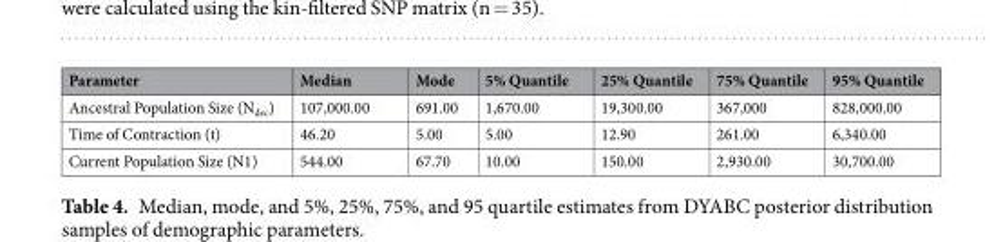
<table><thead><tr><td>Parameter</td><td>Median</td><td>Mode</td><td>5% Quantile</td><td>25% Quantile</td><td>75% Quantile</td><td>95% Quantile</td></tr></thead><tbody><tr><td>Ancestral Population Size (N<sub>dec</sub>)</td><td>107,000.00</td><td>691.00</td><td>1,670.00</td><td>19,300.00</td><td>367,000</td><td>828,000.00</td></tr><tr><td>Time of Contraction (t)</td><td>46.20</td><td>5.00</td><td>5.00</td><td>12.90</td><td>261.00</td><td>6,340.00</td></tr><tr><td>Current Population Size (N1)</td><td>544.00</td><td>67.70</td><td>10.00</td><td>150.00</td><td>2,930.00</td><td>30,700.00</td></tr></tbody></table>